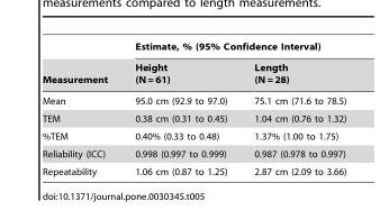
<table><thead><tr><td rowspan="2">Measurement</td><td colspan="2">Estimate, % (95% Confidence Interval)</td></tr><tr><td>Height (N = 61)</td><td>Length (N = 28)</td></tr></thead><tbody><tr><td>Mean</td><td>95.0 cm (92.9 to 97.0)</td><td>75.1 cm (71.6 to 78.5)</td></tr><tr><td>TEM</td><td>0.38 cm (0.31 to 0.45)</td><td>1.04 cm (0.76 to 1.32)</td></tr><tr><td>%TEM</td><td>0.40% (0.33 to 0.48)</td><td>1.37% (1.00 to 1.75)</td></tr><tr><td>Reliability (ICC)</td><td>0.998 (0.997 to 0.999)</td><td>0.987 (0.978 to 0.997)</td></tr><tr><td>Repeatability</td><td>1.06 cm (0.87 to 1.25)</td><td>2.87 cm (2.09 to 3.66)</td></tr></tbody></table>